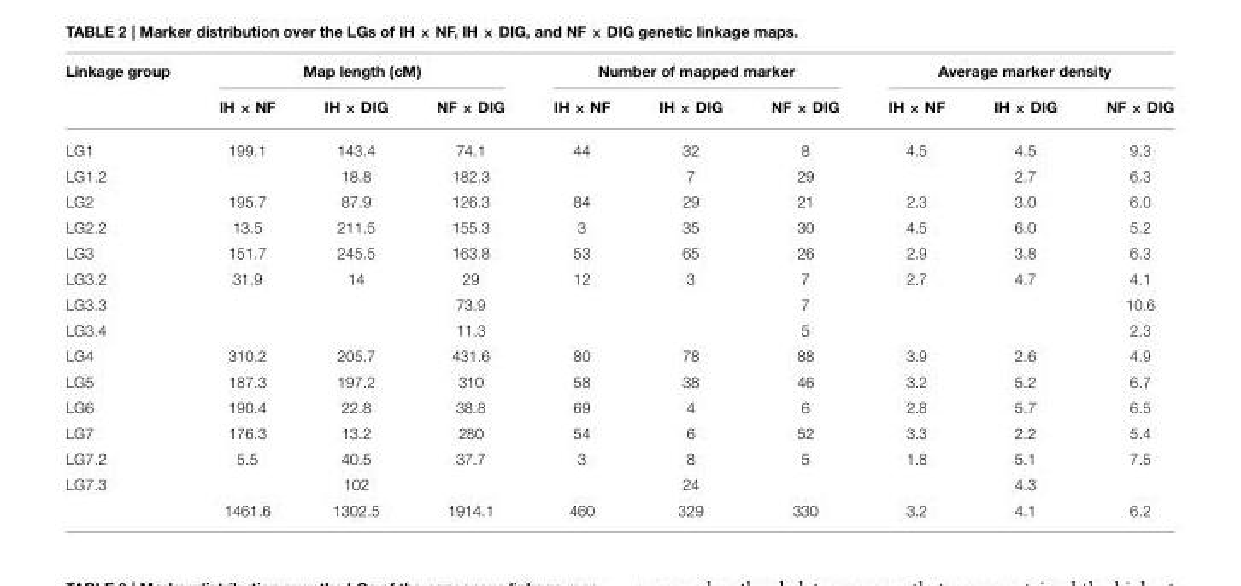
<table><thead><tr><td rowspan="2">Linkage group</td><td colspan="3">Map length (cM)</td><td colspan="3">Number of mapped marker</td><td colspan="3">Average marker density</td></tr><tr><td>IH × NF</td><td>IH × DIG</td><td>NF × DIG</td><td>IH × NF</td><td>IH × DIG</td><td>NF × DIG</td><td>IH × NF</td><td>IH × DIG</td><td>NF × DIG</td></tr></thead><tbody><tr><td>LG1</td><td>199.1</td><td>143.4</td><td>74.1</td><td>44</td><td>32</td><td>8</td><td>4.5</td><td>4.5</td><td>9.3</td></tr><tr><td>LG1.2</td><td></td><td>18.8</td><td>182.3</td><td></td><td>7</td><td>29</td><td></td><td>2.7</td><td>6.3</td></tr><tr><td>LG2</td><td>195.7</td><td>87.9</td><td>126.3</td><td>84</td><td>29</td><td>21</td><td>2.3</td><td>3.0</td><td>6.0</td></tr><tr><td>LG2.2</td><td>13.5</td><td>211.5</td><td>155.3</td><td>3</td><td>35</td><td>30</td><td>4.5</td><td>6.0</td><td>5.2</td></tr><tr><td>LG3</td><td>151.7</td><td>245.5</td><td>163.8</td><td>53</td><td>65</td><td>26</td><td>2.9</td><td>3.8</td><td>6.3</td></tr><tr><td>LG3.2</td><td>31.9</td><td>14</td><td>29</td><td>12</td><td>3</td><td>7</td><td>2.7</td><td>4.7</td><td>4.1</td></tr><tr><td>LG3.3</td><td></td><td></td><td>73.9</td><td></td><td></td><td>7</td><td></td><td></td><td>10.6</td></tr><tr><td>LG3.4</td><td></td><td></td><td>11.3</td><td></td><td></td><td>5</td><td></td><td></td><td>2.3</td></tr><tr><td>LG4</td><td>310.2</td><td>205.7</td><td>431.6</td><td>80</td><td>78</td><td>88</td><td>3.9</td><td>2.6</td><td>4.9</td></tr><tr><td>LG5</td><td>187.3</td><td>197.2</td><td>310</td><td>58</td><td>38</td><td>46</td><td>3.2</td><td>5.2</td><td>6.7</td></tr><tr><td>LG6</td><td>190.4</td><td>22.8</td><td>38.8</td><td>69</td><td>4</td><td>6</td><td>2.8</td><td>5.7</td><td>6.5</td></tr><tr><td>LG7</td><td>176.3</td><td>13.2</td><td>280</td><td>54</td><td>6</td><td>52</td><td>3.3</td><td>2.2</td><td>5.4</td></tr><tr><td>LG7.2</td><td>5.5</td><td>40.5</td><td>37.7</td><td>3</td><td>8</td><td>5</td><td>1.8</td><td>5.1</td><td>7.5</td></tr><tr><td rowspan="2">LG7.3</td><td></td><td>102</td><td></td><td></td><td>24</td><td></td><td></td><td>4.3</td><td></td></tr><tr><td>1461.6</td><td>1302.5</td><td>1914.1</td><td>460</td><td>329</td><td>330</td><td>3.2</td><td>4.1</td><td>6.2</td></tr></tbody></table>